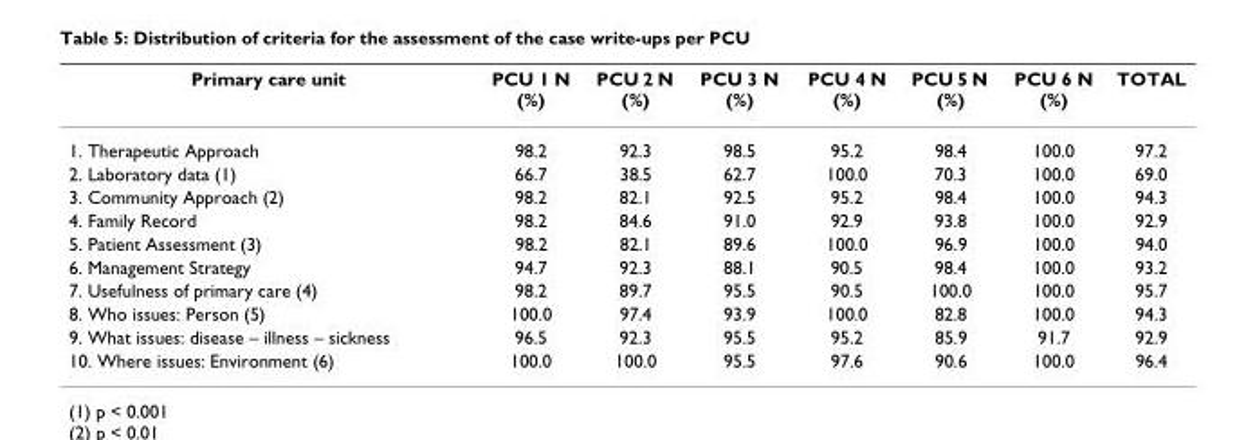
<table><thead><tr><td>Primary care unit</td><td>PCU 1 N (%)</td><td>PCU 2 N (%)</td><td>PCU 3 N (%)</td><td>PCU 4 N (%)</td><td>PCU 5 N (%)</td><td>PCU 6 N (%)</td><td>TOTAL</td></tr></thead><tbody><tr><td>1. Therapeutic Approach</td><td>98.2</td><td>92.3</td><td>98.5</td><td>95.2</td><td>98.4</td><td>100.0</td><td>97.2</td></tr><tr><td>2. Laboratory data (1)</td><td>66.7</td><td>38.5</td><td>62.7</td><td>100.0</td><td>70.3</td><td>100.0</td><td>69.0</td></tr><tr><td>3. Community Approach (2)</td><td>98.2</td><td>82.1</td><td>92.5</td><td>95.2</td><td>98.4</td><td>100.0</td><td>94.3</td></tr><tr><td>4. Family Record</td><td>98.2</td><td>84.6</td><td>91.0</td><td>92.9</td><td>93.8</td><td>100.0</td><td>92.9</td></tr><tr><td>5. Patient Assessment (3)</td><td>98.2</td><td>82.1</td><td>89.6</td><td>100.0</td><td>96.9</td><td>100.0</td><td>94.0</td></tr><tr><td>6. Management Strategy</td><td>94.7</td><td>92.3</td><td>88.1</td><td>90.5</td><td>98.4</td><td>100.0</td><td>93.2</td></tr><tr><td>7. Usefulness of primary care (4)</td><td>98.2</td><td>89.7</td><td>95.5</td><td>90.5</td><td>100.0</td><td>100.0</td><td>95.7</td></tr><tr><td>8. Who issues: Person (5)</td><td>100.0</td><td>97.4</td><td>93.9</td><td>100.0</td><td>82.8</td><td>100.0</td><td>94.3</td></tr><tr><td>9. What issues: disease – illness – sickness</td><td>96.5</td><td>92.3</td><td>95.5</td><td>95.2</td><td>85.9</td><td>91.7</td><td>92.9</td></tr><tr><td>10. Where issues: Environment (6)</td><td>100.0</td><td>100.0</td><td>95.5</td><td>97.6</td><td>90.6</td><td>100.0</td><td>96.4</td></tr></tbody></table>